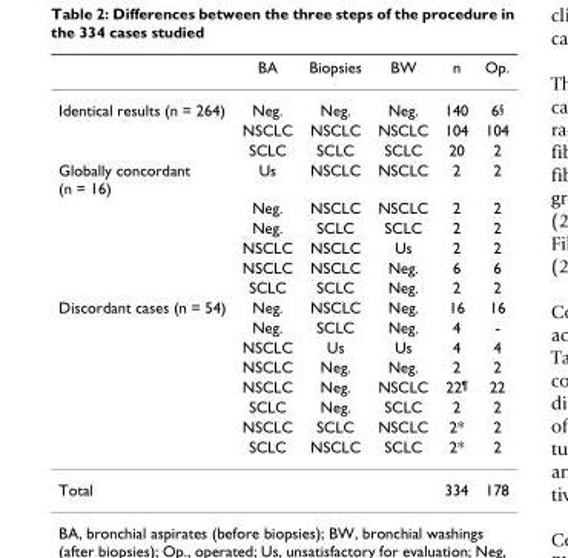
<table><thead><tr><td></td><td>BA</td><td>Biopsies</td><td>BW</td><td>n</td><td>Op.</td></tr></thead><tbody><tr><td rowspan="3">Identical results (n = 264)</td><td>Neg.</td><td>Neg.</td><td>Neg.</td><td>140</td><td>6<sup>§</sup></td></tr><tr><td>NSCLC</td><td>NSCLC</td><td>NSCLC</td><td>104</td><td>104</td></tr><tr><td>SCLC</td><td>SCLC</td><td>SCLC</td><td>20</td><td>2</td></tr><tr><td rowspan="6">Globally concordant (n = 16)</td><td>Us</td><td>NSCLC</td><td>NSCLC</td><td>2</td><td>2</td></tr><tr><td>Neg.</td><td>NSCLC</td><td>NSCLC</td><td>2</td><td>2</td></tr><tr><td>Neg.</td><td>SCLC</td><td>SCLC</td><td>2</td><td>2</td></tr><tr><td>NSCLC</td><td>NSCLC</td><td>Us</td><td>2</td><td>2</td></tr><tr><td>NSCLC</td><td>NSCLC</td><td>Neg.</td><td>6</td><td>6</td></tr><tr><td>SCLC</td><td>SCLC</td><td>Neg.</td><td>2</td><td>2</td></tr><tr><td rowspan="8">Discordant cases (n = 54)</td><td>Neg.</td><td>NSCLC</td><td>Neg.</td><td>16</td><td>16</td></tr><tr><td>Neg.</td><td>SCLC</td><td>Neg.</td><td>4</td><td>-</td></tr><tr><td>NSCLC</td><td>Us</td><td>Us</td><td>4</td><td>4</td></tr><tr><td>NSCLC</td><td>Neg.</td><td>Neg.</td><td>2</td><td>2</td></tr><tr><td>NSCLC</td><td>Neg.</td><td>NSCLC</td><td>22<sup>¶</sup></td><td>22</td></tr><tr><td>SCLC</td><td>Neg.</td><td>SCLC</td><td>2</td><td>2</td></tr><tr><td>NSCLC</td><td>SCLC</td><td>NSCLC</td><td>2*</td><td>2</td></tr><tr><td>SCLC</td><td>NSCLC</td><td>SCLC</td><td>2*</td><td>2</td></tr><tr><td>Total</td><td></td><td></td><td></td><td>334</td><td>178</td></tr></tbody></table>